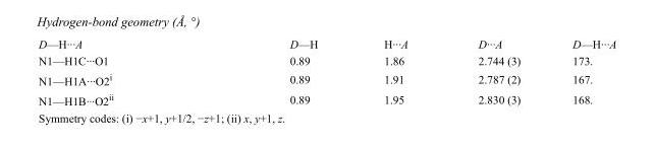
<table><tbody><tr><td>D—H···A</td><td>D—H</td><td>H···A</td><td>D···A</td><td>D—H···A</td></tr><tr><td>N1—H1C···O1</td><td>0.89</td><td>1.86</td><td>2.744 (3)</td><td>173.</td></tr><tr><td>N1—H1A···O2<sup>i</sup></td><td>0.89</td><td>1.91</td><td>2.787 (2)</td><td>167.</td></tr><tr><td>N1—H1B···O2<sup>ii</sup></td><td>0.89</td><td>1.95</td><td>2.830 (3)</td><td>168.</td></tr></tbody></table>